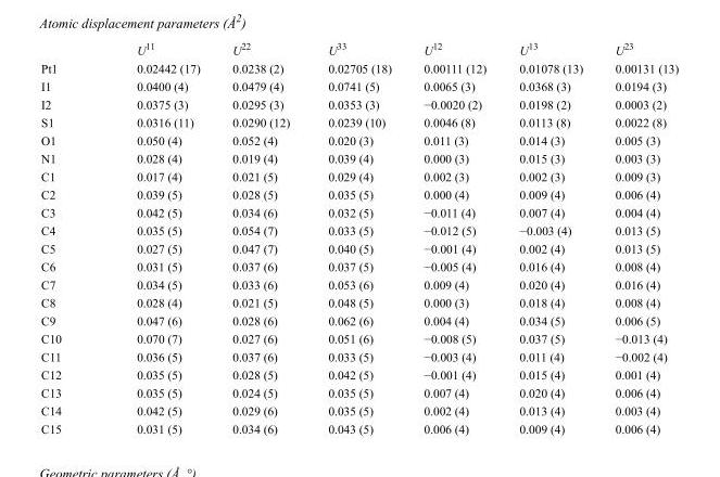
<table><thead><tr><td></td><td>U<sup>11</sup></td><td>U<sup>22</sup></td><td>U<sup>33</sup></td><td>U<sup>12</sup></td><td>U<sup>13</sup></td><td>U<sup>23</sup></td></tr></thead><tbody><tr><td>Pt1</td><td>0.02442 (17)</td><td>0.0238 (2)</td><td>0.02705 (18)</td><td>0.00111 (12)</td><td>0.01078 (13)</td><td>0.00131 (13)</td></tr><tr><td>I1</td><td>0.0400 (4)</td><td>0.0479 (4)</td><td>0.0741 (5)</td><td>0.0065 (3)</td><td>0.0368 (3)</td><td>0.0194 (3)</td></tr><tr><td>I2</td><td>0.0375 (3)</td><td>0.0295 (3)</td><td>0.0353 (3)</td><td>−0.0020 (2)</td><td>0.0198 (2)</td><td>0.0003 (2)</td></tr><tr><td>S1</td><td>0.0316 (11)</td><td>0.0290 (12)</td><td>0.0239 (10)</td><td>0.0046 (8)</td><td>0.0113 (8)</td><td>0.0022 (8)</td></tr><tr><td>O1</td><td>0.050 (4)</td><td>0.052 (4)</td><td>0.020 (3)</td><td>0.011 (3)</td><td>0.014 (3)</td><td>0.005 (3)</td></tr><tr><td>N1</td><td>0.028 (4)</td><td>0.019 (4)</td><td>0.039 (4)</td><td>0.000 (3)</td><td>0.015 (3)</td><td>0.003 (3)</td></tr><tr><td>C1</td><td>0.017 (4)</td><td>0.021 (5)</td><td>0.029 (4)</td><td>0.002 (3)</td><td>0.002 (3)</td><td>0.009 (3)</td></tr><tr><td>C2</td><td>0.039 (5)</td><td>0.028 (5)</td><td>0.035 (5)</td><td>0.000 (4)</td><td>0.009 (4)</td><td>0.006 (4)</td></tr><tr><td>C3</td><td>0.042 (5)</td><td>0.034 (6)</td><td>0.032 (5)</td><td>−0.011 (4)</td><td>0.007 (4)</td><td>0.004 (4)</td></tr><tr><td>C4</td><td>0.035 (5)</td><td>0.054 (7)</td><td>0.033 (5)</td><td>−0.012 (5)</td><td>−0.003 (4)</td><td>0.013 (5)</td></tr><tr><td>C5</td><td>0.027 (5)</td><td>0.047 (7)</td><td>0.040 (5)</td><td>−0.001 (4)</td><td>0.002 (4)</td><td>0.013 (5)</td></tr><tr><td>C6</td><td>0.031 (5)</td><td>0.037 (6)</td><td>0.037 (5)</td><td>−0.005 (4)</td><td>0.016 (4)</td><td>0.008 (4)</td></tr><tr><td>C7</td><td>0.034 (5)</td><td>0.033 (6)</td><td>0.053 (6)</td><td>0.009 (4)</td><td>0.020 (4)</td><td>0.016 (4)</td></tr><tr><td>C8</td><td>0.028 (4)</td><td>0.021 (5)</td><td>0.048 (5)</td><td>0.000 (3)</td><td>0.018 (4)</td><td>0.008 (4)</td></tr><tr><td>C9</td><td>0.047 (6)</td><td>0.028 (6)</td><td>0.062 (6)</td><td>0.004 (4)</td><td>0.034 (5)</td><td>0.006 (5)</td></tr><tr><td>C10</td><td>0.070 (7)</td><td>0.027 (6)</td><td>0.051 (6)</td><td>−0.008 (5)</td><td>0.037 (5)</td><td>−0.013 (4)</td></tr><tr><td>C11</td><td>0.036 (5)</td><td>0.037 (6)</td><td>0.033 (5)</td><td>−0.003 (4)</td><td>0.011 (4)</td><td>−0.002 (4)</td></tr><tr><td>C12</td><td>0.035 (5)</td><td>0.028 (5)</td><td>0.042 (5)</td><td>−0.001 (4)</td><td>0.015 (4)</td><td>0.001 (4)</td></tr><tr><td>C13</td><td>0.035 (5)</td><td>0.024 (5)</td><td>0.035 (5)</td><td>0.007 (4)</td><td>0.020 (4)</td><td>0.006 (4)</td></tr><tr><td>C14</td><td>0.042 (5)</td><td>0.029 (6)</td><td>0.035 (5)</td><td>0.002 (4)</td><td>0.013 (4)</td><td>0.003 (4)</td></tr><tr><td>C15</td><td>0.031 (5)</td><td>0.034 (6)</td><td>0.043 (5)</td><td>0.006 (4)</td><td>0.009 (4)</td><td>0.006 (4)</td></tr></tbody></table>